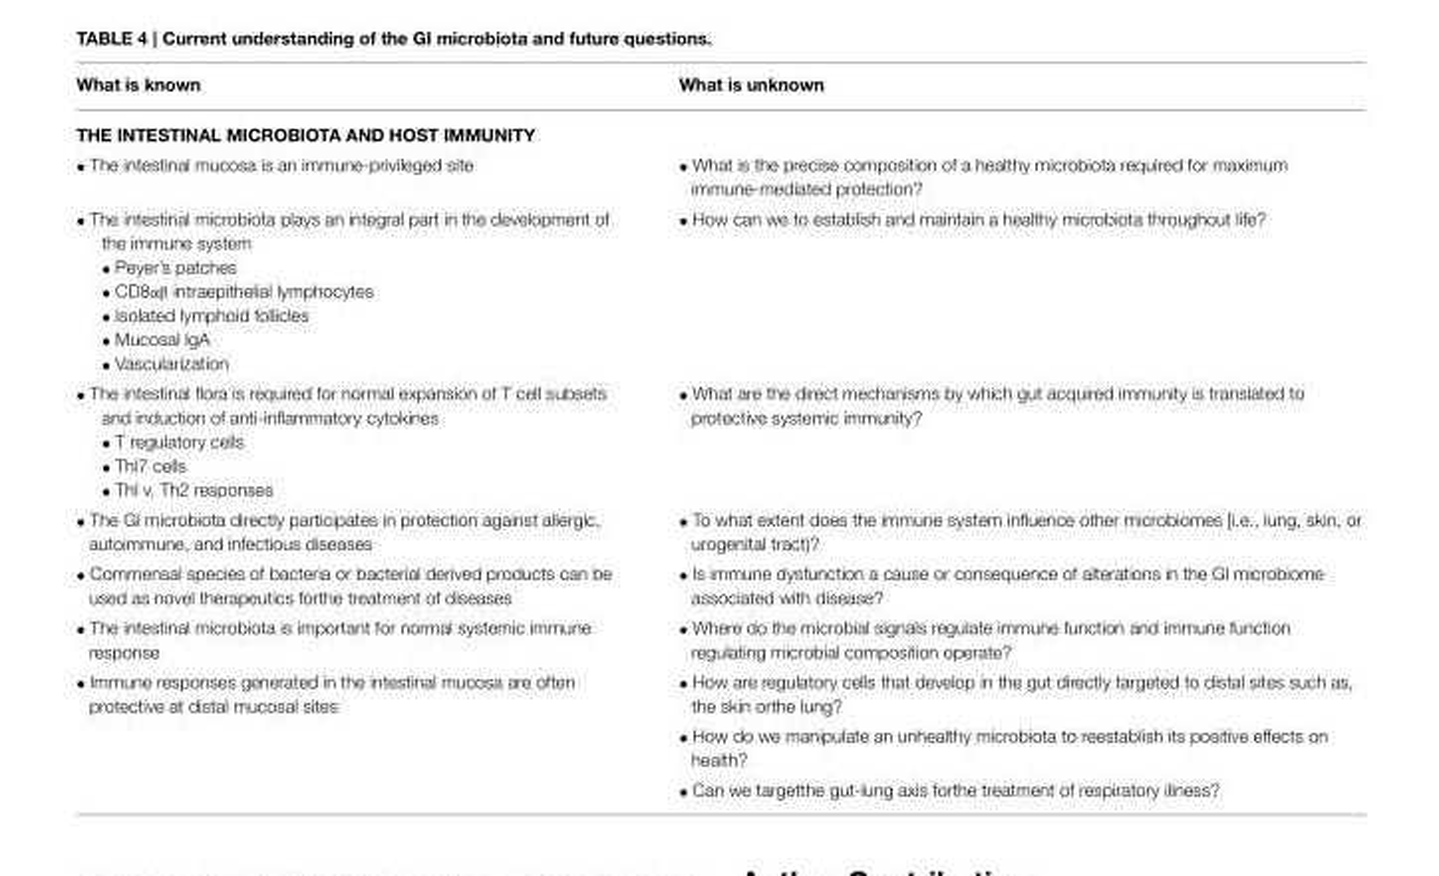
<table><thead><tr><td>What is known</td><td>What is unknown</td></tr></thead><tbody><tr><td colspan="2">THE INTESTINAL MICROBIOTA AND HOST IMMUNITY</td></tr><tr><td>• The intestinal mucosa is an immune-privileged site</td><td>• What is the precise composition of a healthy microbiota required for maximum immune-mediated protection?</td></tr><tr><td>• The intestinal microbiota plays an integral part in the development of the immune system • Peyer’s patches • CD8αβ intraepithelial lymphocytes • Isolated lymphoid follicles • Mucosal IgA • Vascularization</td><td>• How can we to establish and maintain a healthy microbiota throughout life?</td></tr><tr><td>• The intestinal flora is required for normal expansion of T cell subsets and induction of anti-inflammatory cytokines • T regulatory cells • Thl7 cells • Thl v. Th2 responses</td><td>• What are the direct mechanisms by which gut acquired immunity is translated to protective systemic immunity?</td></tr><tr><td>• The Gl microbiota directly participates in protection against allergic, autoimmune, and infectious diseases</td><td>• To what extent does the immune system influence other microbiomes [i.e., lung, skin, or urogenital tract)?</td></tr><tr><td>• Commensal species of bacteria or bacterial derived products can be used as novel therapeutics forthe treatment of diseases</td><td>• Is immune dysfunction a cause or consequence of alterations in the Gl microbiome associated with disease?</td></tr><tr><td>• The intestinal microbiota is important for normal systemic immune response</td><td>• Where do the microbial signals regulate immune function and immune function regulating microbial composition operate?</td></tr><tr><td rowspan="3">• Immune responses generated in the intestinal mucosa are often protective at distal mucosal sites</td><td>• How are regulatory cells that develop in the gut directly targeted to distal sites such as, the skin orthe lung?</td></tr><tr><td>• How do we manipulate an unhealthy microbiota to reestablish its positive effects on health?</td></tr><tr><td>• Can we targetthe gut-lung axis forthe treatment of respiratory illness?</td></tr></tbody></table>